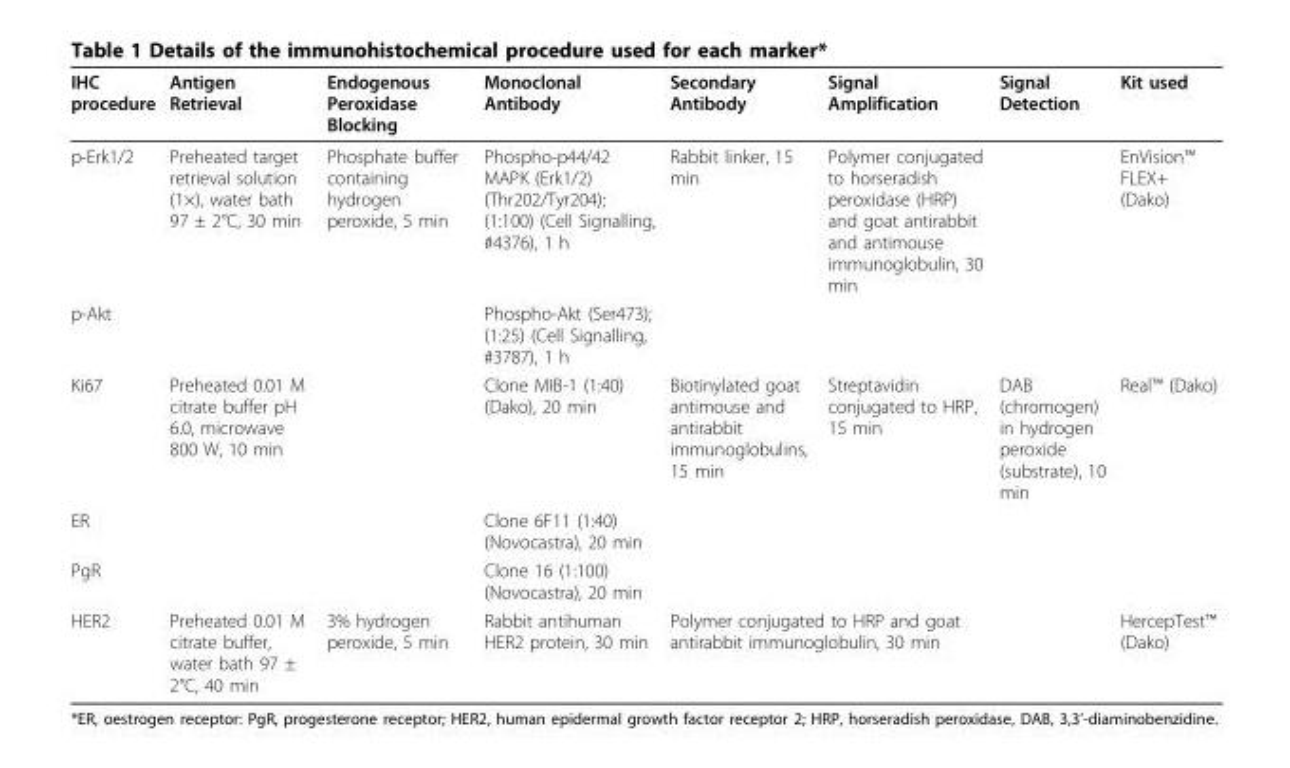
<table><thead><tr><td>IHC procedure</td><td>Antigen Retrieval</td><td>Endogenous Peroxidase Blocking</td><td>Monoclonal Antibody</td><td>Secondary Antibody</td><td>Signal Amplification</td><td>Signal Detection</td><td>Kit used</td></tr></thead><tbody><tr><td>p-Erk1/2</td><td>Preheated target retrieval solution (1×), water bath 97 ± 2°C, 30 min</td><td>Phosphate buffer containing hydrogen peroxide, 5 min</td><td>Phospho-p44/42 MAPK (Erk1/2) (Thr202/Tyr204); (1:100) (Cell Signalling, #4376), 1 h</td><td>Rabbit linker, 15 min</td><td>Polymer conjugated to horseradish peroxidase (HRP) and goat antirabbit and antimouse immunoglobulin, 30 min</td><td></td><td>EnVision™ FLEX+ (Dako)</td></tr><tr><td>p-Akt</td><td></td><td></td><td>Phospho-Akt (Ser473); (1:25) (Cell Signalling, #3787), 1 h</td><td></td><td></td><td></td><td></td></tr><tr><td>Ki67</td><td>Preheated 0.01 M citrate buffer pH 6.0, microwave 800 W, 10 min</td><td></td><td>Clone MIB-1 (1:40) (Dako), 20 min</td><td>Biotinylated goat antimouse and antirabbit immunoglobulins, 15 min</td><td>Streptavidin conjugated to HRP, 15 min</td><td>DAB (chromogen) in hydrogen peroxide (substrate), 10 min</td><td>Real™ (Dako)</td></tr><tr><td>ER</td><td></td><td></td><td>Clone 6F11 (1:40) (Novocastra), 20 min</td><td></td><td></td><td></td><td></td></tr><tr><td>PgR</td><td></td><td></td><td>Clone 16 (1:100) (Novocastra), 20 min</td><td></td><td></td><td></td><td></td></tr><tr><td>HER2</td><td>Preheated 0.01 M citrate buffer, water bath 97 ± 2°C, 40 min</td><td>3% hydrogen peroxide, 5 min</td><td>Rabbit antihuman HER2 protein, 30 min</td><td colspan="2">Polymer conjugated to HRP and goat antirabbit immunoglobulin, 30 min</td><td></td><td>HercepTest™ (Dako)</td></tr></tbody></table>